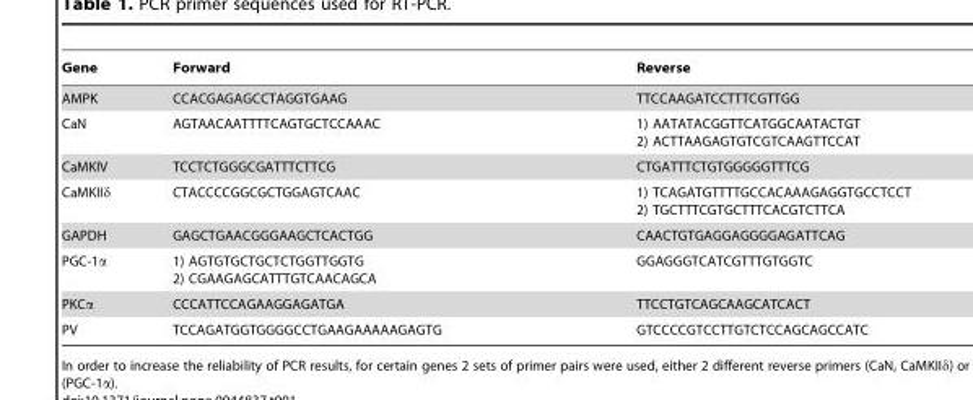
<table><thead><tr><td>Gene</td><td>Forward</td><td>Reverse</td></tr></thead><tbody><tr><td>AMPK</td><td>CCACGAGAGCCTAGGTGAAG</td><td>TTCCAAGATCCTTTCGTTGG</td></tr><tr><td>CaN</td><td>AGTAACAATTTTCAGTGCTCCAAAC</td><td>1) AATATACGGTTCATGGCAATACTGT 2) ACTTAAGAGTGTCGTCAAGTTCCAT</td></tr><tr><td>CaMKIV</td><td>TCCTCTGGGCGATTTCTTCG</td><td>CTGATTTCTGTGGGGGTTTCG</td></tr><tr><td>CaMKIIδ</td><td>CTACCCCGGCGCTGGAGTCAAC</td><td>1) TCAGATGTTTTGCCACAAAGAGGTGCCTCCT 2) TGCTTTCGTGCTTTCACGTCTTCA</td></tr><tr><td>GAPDH</td><td>GAGCTGAACGGGAAGCTCACTGG</td><td>CAACTGTGAGGAGGGGAGATTCAG</td></tr><tr><td>PGC-1α</td><td>1) AGTGTGCTGCTCTGGTTGGTG 2) CGAAGAGCATTTGTCAACAGCA</td><td>GGAGGGTCATCGTTTGTGGTC</td></tr><tr><td>PKCα</td><td>CCCATTCCAGAAGGAGATGA</td><td>TTCCTGTCAGCAAGCATCACT</td></tr><tr><td>PV</td><td>TCCAGATGGTGGGGCCTGAAGAAAAAGAGTG</td><td>GTCCCCGTCCTTGTCTCCAGCAGCCATC</td></tr></tbody></table>